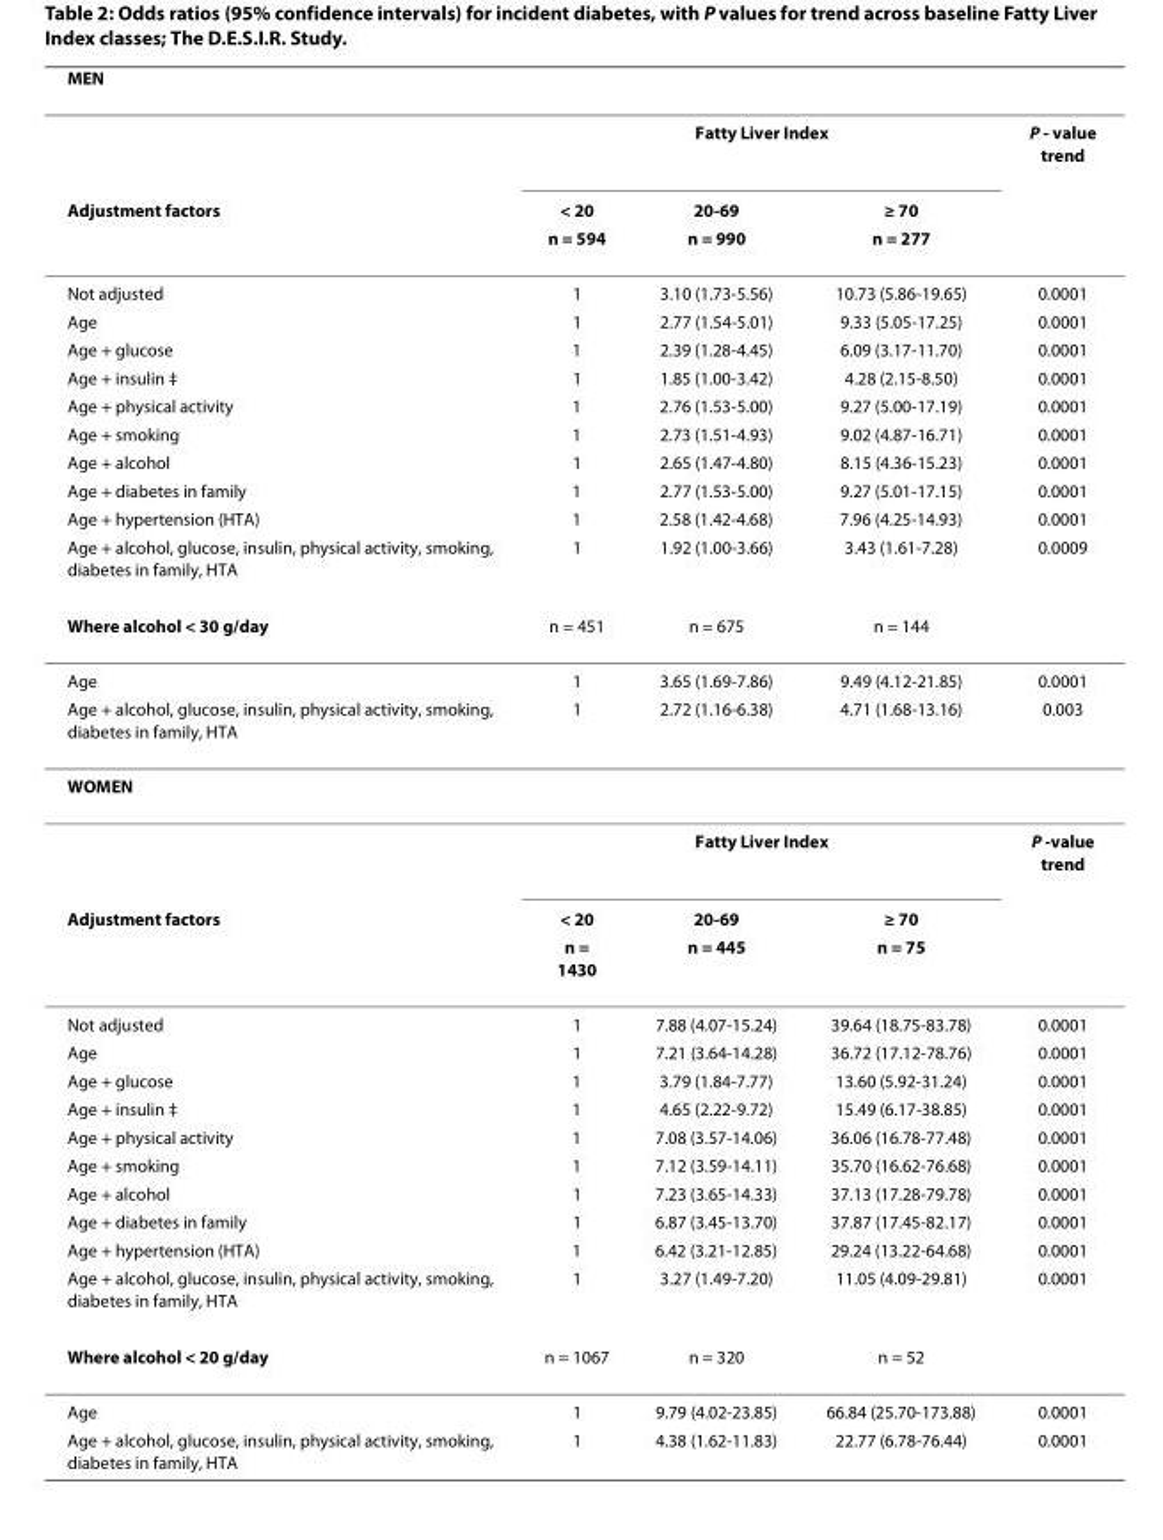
<table><thead><tr><td>MEN</td><td></td><td></td><td></td><td></td></tr></thead><tbody><tr><td></td><td colspan="3">Fatty Liver Index</td><td>P - value trend</td></tr><tr><td rowspan="2">Adjustment factors</td><td>&lt; 20</td><td>20-69</td><td>≥ 70</td><td></td></tr><tr><td>n = 594</td><td>n = 990</td><td>n = 277</td><td></td></tr><tr><td>Not adjusted</td><td>1</td><td>3.10 (1.73-5.56)</td><td>10.73 (5.86-19.65)</td><td>0.0001</td></tr><tr><td>Age</td><td>1</td><td>2.77 (1.54-5.01)</td><td>9.33 (5.05-17.25)</td><td>0.0001</td></tr><tr><td>Age + glucose</td><td>1</td><td>2.39 (1.28-4.45)</td><td>6.09 (3.17-11.70)</td><td>0.0001</td></tr><tr><td>Age + insulin ‡</td><td>1</td><td>1.85 (1.00-3.42)</td><td>4.28 (2.15-8.50)</td><td>0.0001</td></tr><tr><td>Age + physical activity</td><td>1</td><td>2.76 (1.53-5.00)</td><td>9.27 (5.00-17.19)</td><td>0.0001</td></tr><tr><td>Age + smoking</td><td>1</td><td>2.73 (1.51-4.93)</td><td>9.02 (4.87-16.71)</td><td>0.0001</td></tr><tr><td>Age + alcohol</td><td>1</td><td>2.65 (1.47-4.80)</td><td>8.15 (4.36-15.23)</td><td>0.0001</td></tr><tr><td>Age + diabetes in family</td><td>1</td><td>2.77 (1.53-5.00)</td><td>9.27 (5.01-17.15)</td><td>0.0001</td></tr><tr><td>Age + hypertension (HTA)</td><td>1</td><td>2.58 (1.42-4.68)</td><td>7.96 (4.25-14.93)</td><td>0.0001</td></tr><tr><td>Age + alcohol, glucose, insulin, physical activity, smoking, diabetes in family, HTA</td><td>1</td><td>1.92 (1.00-3.66)</td><td>3.43 (1.61-7.28)</td><td>0.0009</td></tr><tr><td>Where alcohol &lt; 30 g/day</td><td>n = 451</td><td>n = 675</td><td>n = 144</td><td></td></tr><tr><td>Age</td><td>1</td><td>3.65 (1.69-7.86)</td><td>9.49 (4.12-21.85)</td><td>0.0001</td></tr><tr><td>Age + alcohol, glucose, insulin, physical activity, smoking, diabetes in family, HTA</td><td>1</td><td>2.72 (1.16-6.38)</td><td>4.71 (1.68-13.16)</td><td>0.003</td></tr><tr><td colspan="5">WOMEN</td></tr><tr><td></td><td colspan="3">Fatty Liver Index</td><td>P -value trend</td></tr><tr><td rowspan="2">Adjustment factors</td><td>&lt; 20</td><td>20-69</td><td>≥ 70</td><td></td></tr><tr><td>n = 1430</td><td>n = 445</td><td>n = 75</td><td></td></tr><tr><td>Not adjusted</td><td>1</td><td>7.88 (4.07-15.24)</td><td>39.64 (18.75-83.78)</td><td>0.0001</td></tr><tr><td>Age</td><td>1</td><td>7.21 (3.64-14.28)</td><td>36.72 (17.12-78.76)</td><td>0.0001</td></tr><tr><td>Age + glucose</td><td>1</td><td>3.79 (1.84-7.77)</td><td>13.60 (5.92-31.24)</td><td>0.0001</td></tr><tr><td>Age + insulin ‡</td><td>1</td><td>4.65 (2.22-9.72)</td><td>15.49 (6.17-38.85)</td><td>0.0001</td></tr><tr><td>Age + physical activity</td><td>1</td><td>7.08 (3.57-14.06)</td><td>36.06 (16.78-77.48)</td><td>0.0001</td></tr><tr><td>Age + smoking</td><td>1</td><td>7.12 (3.59-14.11)</td><td>35.70 (16.62-76.68)</td><td>0.0001</td></tr><tr><td>Age + alcohol</td><td>1</td><td>7.23 (3.65-14.33)</td><td>37.13 (17.28-79.78)</td><td>0.0001</td></tr><tr><td>Age + diabetes in family</td><td>1</td><td>6.87 (3.45-13.70)</td><td>37.87 (17.45-82.17)</td><td>0.0001</td></tr><tr><td>Age + hypertension (HTA)</td><td>1</td><td>6.42 (3.21-12.85)</td><td>29.24 (13.22-64.68)</td><td>0.0001</td></tr><tr><td>Age + alcohol, glucose, insulin, physical activity, smoking, diabetes in family, HTA</td><td>1</td><td>3.27 (1.49-7.20)</td><td>11.05 (4.09-29.81)</td><td>0.0001</td></tr><tr><td>Where alcohol &lt; 20 g/day</td><td>n = 1067</td><td>n = 320</td><td>n = 52</td><td></td></tr><tr><td>Age</td><td>1</td><td>9.79 (4.02-23.85)</td><td>66.84 (25.70-173.88)</td><td>0.0001</td></tr><tr><td>Age + alcohol, glucose, insulin, physical activity, smoking, diabetes in family, HTA</td><td>1</td><td>4.38 (1.62-11.83)</td><td>22.77 (6.78-76.44)</td><td>0.0001</td></tr></tbody></table>